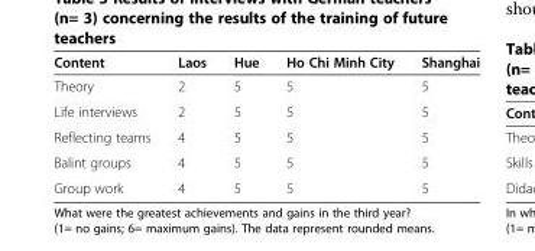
<table><thead><tr><td>Content</td><td>Laos</td><td>Hue</td><td>Ho Chi Minh City</td><td>Shanghai</td></tr></thead><tbody><tr><td>Theory</td><td>2</td><td>5</td><td>5</td><td>5</td></tr><tr><td>Life interviews</td><td>2</td><td>5</td><td>5</td><td>5</td></tr><tr><td>Reflecting teams</td><td>4</td><td>5</td><td>5</td><td>5</td></tr><tr><td>Balint groups</td><td>4</td><td>5</td><td>5</td><td>5</td></tr><tr><td>Group work</td><td>4</td><td>5</td><td>5</td><td>5</td></tr></tbody></table>